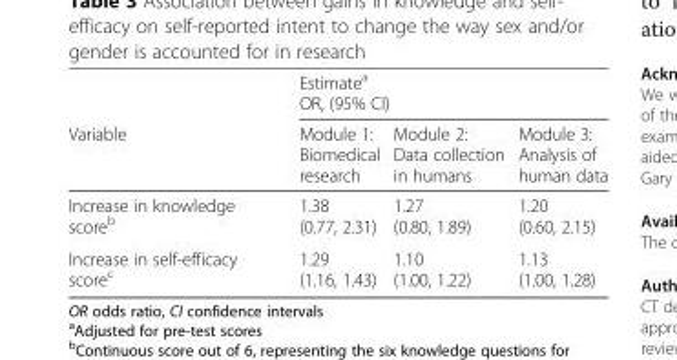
<table><thead><tr><td rowspan="2">Variable</td><td colspan="3">Estimate<sup>a</sup> OR, (95% CI)</td></tr><tr><td>Module 1: Biomedical research</td><td>Module 2: Data collection in humans</td><td>Module 3: Analysis of human data</td></tr></thead><tbody><tr><td>Increase in knowledge score<sup>b</sup></td><td>1.38 (0.77, 2.31)</td><td>1.27 (0.80, 1.89)</td><td>1.20 (0.60, 2.15)</td></tr><tr><td>Increase in self-efficacy score<sup>c</sup></td><td>1.29 (1.16, 1.43)</td><td>1.10 (1.00, 1.22)</td><td>1.13 (1.00, 1.28)</td></tr></tbody></table>